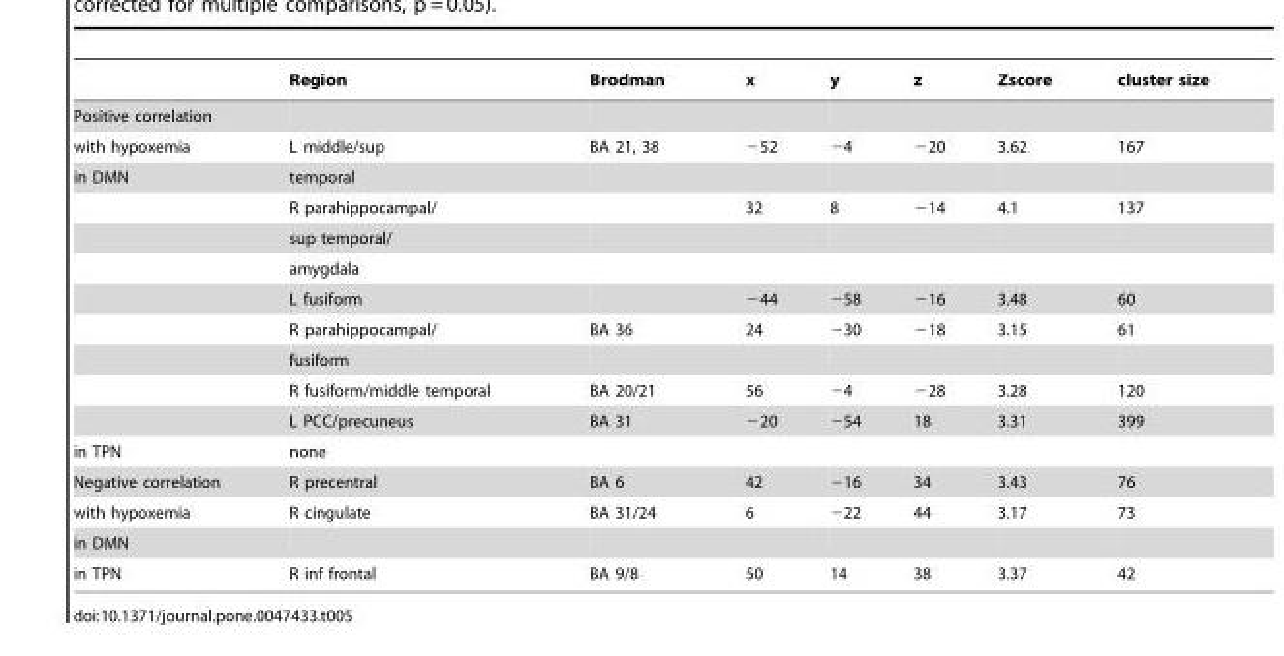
<table><thead><tr><td></td><td>Region</td><td>Brodman</td><td>x</td><td>y</td><td>z</td><td>Zscore</td><td>cluster size</td></tr></thead><tbody><tr><td colspan="8">Positive correlation</td></tr><tr><td>with hypoxemia</td><td>L middle/sup</td><td>BA 21, 38</td><td>−52</td><td>−4</td><td>−20</td><td>3.62</td><td>167</td></tr><tr><td rowspan="9">in DMN</td><td>temporal</td><td></td><td></td><td></td><td></td><td></td><td></td></tr><tr><td>R parahippocampal/</td><td></td><td>32</td><td>8</td><td>−14</td><td>4.1</td><td>137</td></tr><tr><td>sup temporal/</td><td></td><td></td><td></td><td></td><td></td><td></td></tr><tr><td>amygdala</td><td></td><td></td><td></td><td></td><td></td><td></td></tr><tr><td>L fusiform</td><td></td><td>−44</td><td>−58</td><td>−16</td><td>3.48</td><td>60</td></tr><tr><td>R parahippocampal/</td><td>BA 36</td><td>24</td><td>−30</td><td>−18</td><td>3.15</td><td>61</td></tr><tr><td>fusiform</td><td></td><td></td><td></td><td></td><td></td><td></td></tr><tr><td>R fusiform/middle temporal</td><td>BA 20/21</td><td>56</td><td>−4</td><td>−28</td><td>3.28</td><td>120</td></tr><tr><td>L PCC/precuneus</td><td>BA 31</td><td>−20</td><td>−54</td><td>18</td><td>3.31</td><td>399</td></tr><tr><td>in TPN</td><td>none</td><td></td><td></td><td></td><td></td><td></td><td></td></tr><tr><td>Negative correlation</td><td>R precentral</td><td>BA 6</td><td>42</td><td>−16</td><td>34</td><td>3.43</td><td>76</td></tr><tr><td>with hypoxemia</td><td>R cingulate</td><td>BA 31/24</td><td>6</td><td>−22</td><td>44</td><td>3.17</td><td>73</td></tr><tr><td colspan="8">in DMN</td></tr><tr><td>in TPN</td><td>R inf frontal</td><td>BA 9/8</td><td>50</td><td>14</td><td>38</td><td>3.37</td><td>42</td></tr></tbody></table>